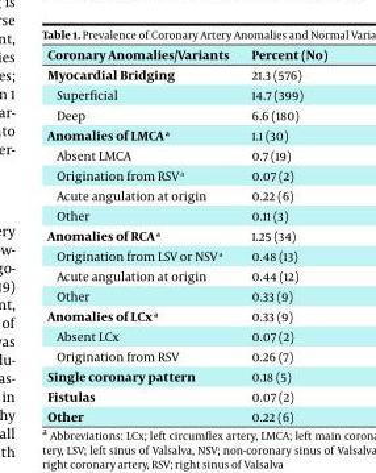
<table><thead><tr><td>Coronary Anomalies/Variants</td><td>Percent (No)</td></tr></thead><tbody><tr><td>Myocardial Bridging</td><td>21.3 (576)</td></tr><tr><td>Superficial</td><td>14.7 (399)</td></tr><tr><td>Deep</td><td>6.6 (180)</td></tr><tr><td>Anomalies of LMCA <sup>a</sup></td><td>1.1 (30)</td></tr><tr><td>Absent LMCA</td><td>0.7 (19)</td></tr><tr><td>Origination from RSV <sup>a</sup></td><td>0.07 (2)</td></tr><tr><td>Acute angulation at origin</td><td>0.22 (6)</td></tr><tr><td>Other</td><td>0.11 (3)</td></tr><tr><td>Anomalies of RCA <sup>a</sup></td><td>1.25 (34)</td></tr><tr><td>Origination from LSV or NSV <sup>a</sup></td><td>0.48 (13)</td></tr><tr><td>Acute angulation at origin</td><td>0.44 (12)</td></tr><tr><td>Other</td><td>0.33 (9)</td></tr><tr><td>Anomalies of LCx <sup>a</sup></td><td>0.33 (9)</td></tr><tr><td>Absent LCx</td><td>0.07 (2)</td></tr><tr><td>Origination from RSV</td><td>0.26 (7)</td></tr><tr><td>Single coronary pattern</td><td>0.18 (5)</td></tr><tr><td>Fistulas</td><td>0.07 (2)</td></tr><tr><td>Other</td><td>0.22 (6)</td></tr></tbody></table>